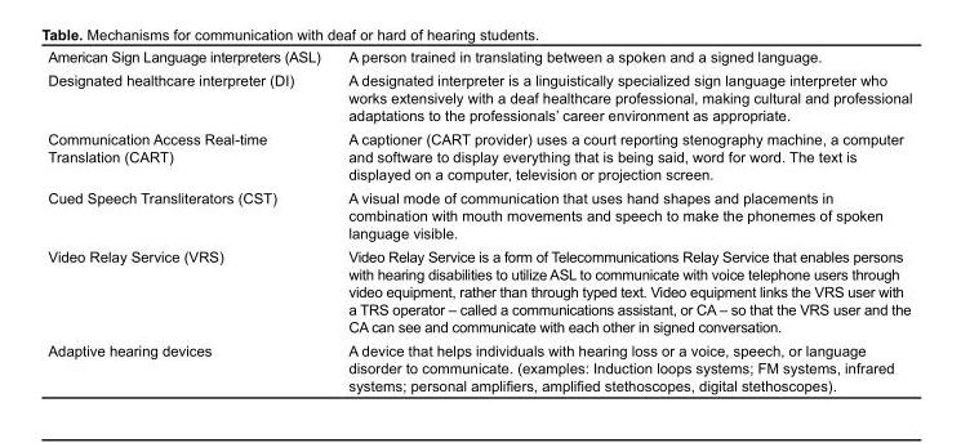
<table><tbody><tr><td>American Sign Language interpreters (ASL)</td><td>A person trained in translating between a spoken and a signed language.</td></tr><tr><td>Designated healthcare interpreter (DI)</td><td>A designated interpreter is a linguistically specialized sign language interpreter who works extensively with a deaf healthcare professional, making cultural and professional adaptations to the professionals’ career environment as appropriate.</td></tr><tr><td>Communication Access Real-time Translation (CART)</td><td>A captioner (CART provider) uses a court reporting stenography machine, a computer and software to display everything that is being said, word for word. The text is displayed on a computer, television or projection screen.</td></tr><tr><td>Cued Speech Transliterators (CST)</td><td>A visual mode of communication that uses hand shapes and placements in combination with mouth movements and speech to make the phonemes of spoken language visible.</td></tr><tr><td>Video Relay Service (VRS)</td><td>Video Relay Service is a form of Telecommunications Relay Service that enables persons with hearing disabilities to utilize ASL to communicate with voice telephone users through video equipment, rather than through typed text. Video equipment links the VRS user with a TRS operator – called a communications assistant, or CA – so that the VRS user and the CA can see and communicate with each other in signed conversation.</td></tr><tr><td>Adaptive hearing devices</td><td>A device that helps individuals with hearing loss or a voice, speech, or language disorder to communicate. (examples: Induction loops systems; FM systems, infrared systems; personal amplifiers, amplified stethoscopes, digital stethoscopes).</td></tr></tbody></table>